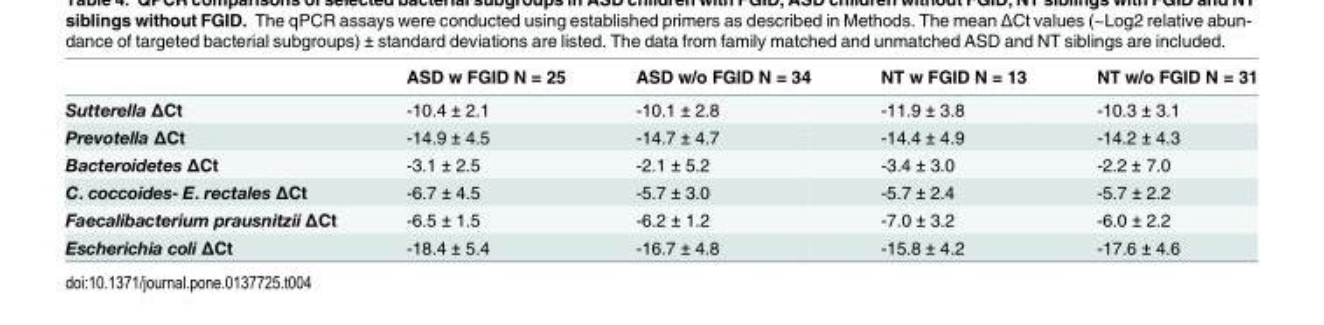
<table><thead><tr><td></td><td>ASD w FGID N = 25</td><td>ASD w/o FGID N = 34</td><td>NT w FGID N = 13</td><td>NT w/o FGID N = 31</td></tr></thead><tbody><tr><td>Sutterella ΔCt</td><td>-10.4 ± 2.1</td><td>-10.1 ± 2.8</td><td>-11.9 ± 3.8</td><td>-10.3 ± 3.1</td></tr><tr><td>Prevotella ΔCt</td><td>-14.9 ± 4.5</td><td>-14.7 ± 4.7</td><td>-14.4 ± 4.9</td><td>-14.2 ± 4.3</td></tr><tr><td>Bacteroidetes ΔCt</td><td>-3.1 ± 2.5</td><td>-2.1 ± 5.2</td><td>-3.4 ± 3.0</td><td>-2.2 ± 7.0</td></tr><tr><td>C. coccoides- E. rectales ΔCt</td><td>-6.7 ± 4.5</td><td>-5.7 ± 3.0</td><td>-5.7 ± 2.4</td><td>-5.7 ± 2.2</td></tr><tr><td>Faecalibacterium prausnitzii ΔCt</td><td>-6.5 ± 1.5</td><td>-6.2 ± 1.2</td><td>-7.0 ± 3.2</td><td>-6.0 ± 2.2</td></tr><tr><td>Escherichia coli ΔCt</td><td>-18.4 ± 5.4</td><td>-16.7 ± 4.8</td><td>-15.8 ± 4.2</td><td>-17.6 ± 4.6</td></tr></tbody></table>